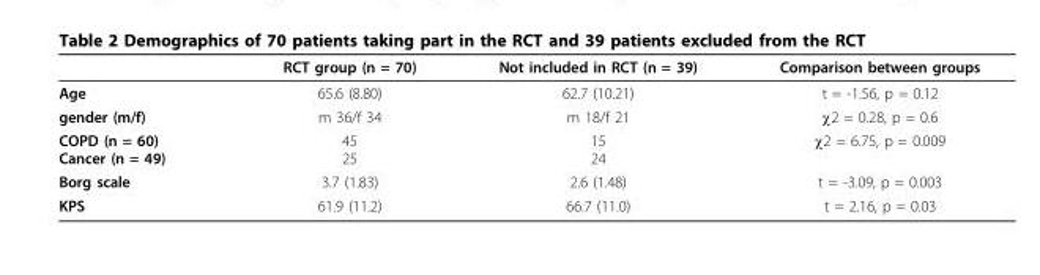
<table><thead><tr><td></td><td>RCT group (n = 70)</td><td>Not included in RCT (n = 39)</td><td>Comparison between groups</td></tr></thead><tbody><tr><td>Age</td><td>65.6 (8.80)</td><td>62.7 (10.21)</td><td>t = -1.56, p = 0.12</td></tr><tr><td>gender (m/f)</td><td>m 36/f 34</td><td>m 18/f 21</td><td>χ2 = 0.28, p = 0.6</td></tr><tr><td>COPD (n = 60) Cancer (n = 49)</td><td>45 25</td><td>15 24</td><td>χ2 = 6.75, p = 0.009</td></tr><tr><td>Borg scale</td><td>3.7 (1.83)</td><td>2.6 (1.48)</td><td>t = -3.09, p = 0.003</td></tr><tr><td>KPS</td><td>61.9 (11.2)</td><td>66.7 (11.0)</td><td>t = 2.16, p = 0.03</td></tr></tbody></table>